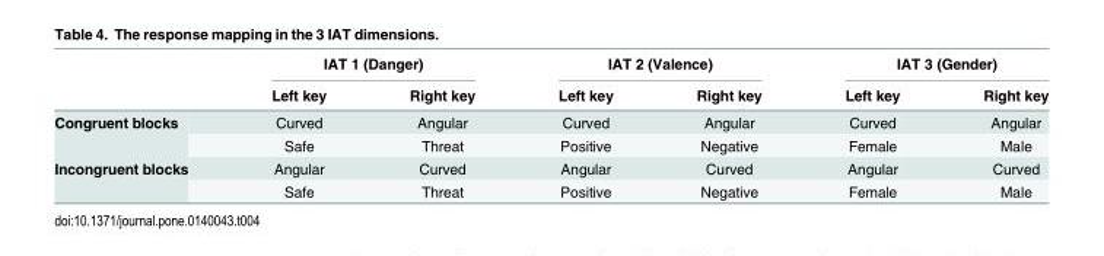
<table><thead><tr><td rowspan="2"></td><td colspan="2">IAT 1 (Danger)</td><td colspan="2">IAT 2 (Valence)</td><td colspan="2">IAT 3 (Gender)</td></tr><tr><td>Left key</td><td>Right key</td><td>Left key</td><td>Right key</td><td>Left key</td><td>Right key</td></tr></thead><tbody><tr><td rowspan="2">Congruent blocks</td><td>Curved</td><td>Angular</td><td>Curved</td><td>Angular</td><td>Curved</td><td>Angular</td></tr><tr><td>Safe</td><td>Threat</td><td>Positive</td><td>Negative</td><td>Female</td><td>Male</td></tr><tr><td rowspan="2">Incongruent blocks</td><td>Angular</td><td>Curved</td><td>Angular</td><td>Curved</td><td>Angular</td><td>Curved</td></tr><tr><td>Safe</td><td>Threat</td><td>Positive</td><td>Negative</td><td>Female</td><td>Male</td></tr></tbody></table>